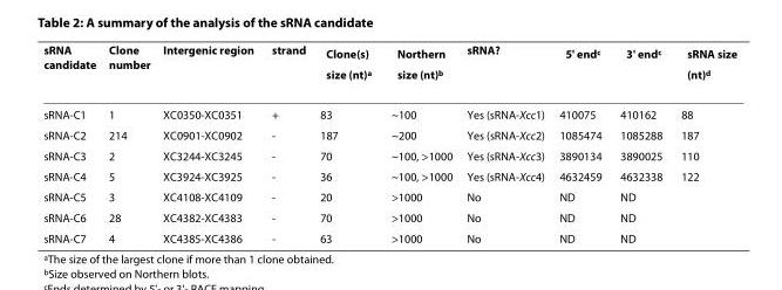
<table><thead><tr><td>sRNA candidate</td><td>Clone number</td><td>Intergenic region</td><td>strand</td><td>Clone(s) size (nt)<sup>a</sup></td><td>Northern size (nt)<sup>b</sup></td><td>sRNA?</td><td>5&#x27; end<sup>c</sup></td><td>3&#x27; end<sup>c</sup></td><td>sRNA size (nt)<sup>d</sup></td></tr></thead><tbody><tr><td>sRNA-C1</td><td>1</td><td>XC0350-XC0351</td><td>+</td><td>83</td><td>~100</td><td>Yes (sRNA-Xcc1)</td><td>410075</td><td>410162</td><td>88</td></tr><tr><td>sRNA-C2</td><td>214</td><td>XC0901-XC0902</td><td>-</td><td>187</td><td>~200</td><td>Yes (sRNA-Xcc2)</td><td>1085474</td><td>1085288</td><td>187</td></tr><tr><td>sRNA-C3</td><td>2</td><td>XC3244-XC3245</td><td>-</td><td>70</td><td>~100, &gt;1000</td><td>Yes (sRNA-Xcc3)</td><td>3890134</td><td>3890025</td><td>110</td></tr><tr><td>sRNA-C4</td><td>5</td><td>XC3924-XC3925</td><td>-</td><td>36</td><td>~100, &gt;1000</td><td>Yes (sRNA-Xcc4)</td><td>4632459</td><td>4632338</td><td>122</td></tr><tr><td>sRNA-C5</td><td>3</td><td>XC4108-XC4109</td><td>-</td><td>20</td><td>&gt;1000</td><td>No</td><td>ND</td><td>ND</td><td></td></tr><tr><td>sRNA-C6</td><td>28</td><td>XC4382-XC4383</td><td>-</td><td>70</td><td>&gt;1000</td><td>No</td><td>ND</td><td>ND</td><td></td></tr><tr><td>sRNA-C7</td><td>4</td><td>XC4385-XC4386</td><td>-</td><td>63</td><td>&gt;1000</td><td>No</td><td>ND</td><td>ND</td><td></td></tr></tbody></table>